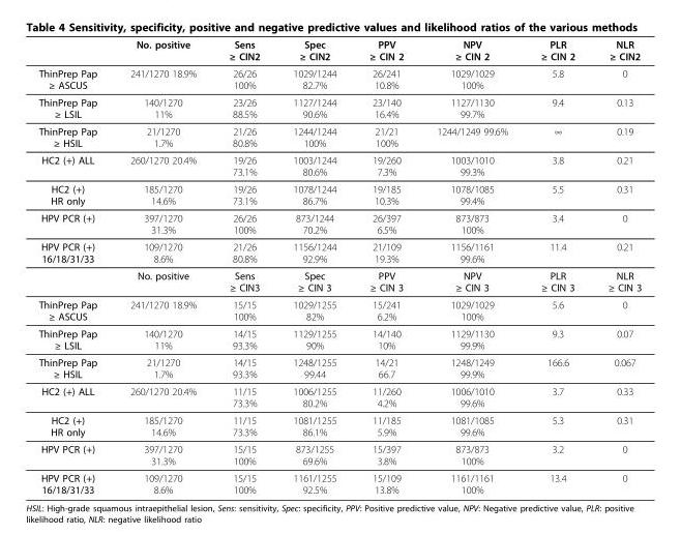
<table><thead><tr><td></td><td>No. positive</td><td>Sens ≥ CIN2</td><td>Spec ≥ CIN2</td><td>PPV ≥ CIN 2</td><td>NPV ≥ CIN 2</td><td>PLR ≥ CIN 2</td><td>NLR ≥ CIN2</td></tr></thead><tbody><tr><td>ThinPrep Pap ≥ ASCUS</td><td>241/1270 18.9%</td><td>26/26 100%</td><td>1029/1244 82.7%</td><td>26/241 10.8%</td><td>1029/1029 100%</td><td>5.8</td><td>0</td></tr><tr><td>ThinPrep Pap ≥ LSIL</td><td>140/1270 11%</td><td>23/26 88.5%</td><td>1127/1244 90.6%</td><td>23/140 16.4%</td><td>1127/1130 99.7%</td><td>9.4</td><td>0.13</td></tr><tr><td>ThinPrep Pap ≥ HSIL</td><td>21/1270 1.7%</td><td>21/26 80.8%</td><td>1244/1244 100%</td><td>21/21 100%</td><td>1244/1249 99.6%</td><td>∞</td><td>0.19</td></tr><tr><td>HC2 (+) ALL</td><td>260/1270 20.4%</td><td>19/26 73.1%</td><td>1003/1244 80.6%</td><td>19/260 7.3%</td><td>1003/1010 99.3%</td><td>3.8</td><td>0.21</td></tr><tr><td>HC2 (+) HR only</td><td>185/1270 14.6%</td><td>19/26 73.1%</td><td>1078/1244 86.7%</td><td>19/185 10.3%</td><td>1078/1085 99.4%</td><td>5.5</td><td>0.31</td></tr><tr><td>HPV PCR (+)</td><td>397/1270 31.3%</td><td>26/26 100%</td><td>873/1244 70.2%</td><td>26/397 6.5%</td><td>873/873 100%</td><td>3.4</td><td>0</td></tr><tr><td rowspan="2">HPV PCR (+) 16/18/31/33</td><td>109/1270 8.6%</td><td>21/26 80.8%</td><td>1156/1244 92.9%</td><td>21/109 19.3%</td><td>1156/1161 99.6%</td><td>11.4</td><td>0.21</td></tr><tr><td>No. positive</td><td>Sens ≥ CIN3</td><td>Spec ≥ CIN 3</td><td>PPV ≥ CIN 3</td><td>NPV ≥ CIN 3</td><td>PLR ≥ CIN 3</td><td>NLR ≥ CIN 3</td></tr><tr><td>ThinPrep Pap ≥ ASCUS</td><td>241/1270 18.9%</td><td>15/15 100%</td><td>1029/1255 82%</td><td>15/241 6.2%</td><td>1029/1029 100%</td><td>5.6</td><td>0</td></tr><tr><td>ThinPrep Pap ≥ LSIL</td><td>140/1270 11%</td><td>14/15 93.3%</td><td>1129/1255 90%</td><td>14/140 10%</td><td>1129/1130 99.9%</td><td>9.3</td><td>0.07</td></tr><tr><td>ThinPrep Pap ≥ HSIL</td><td>21/1270 1.7%</td><td>14/15 93.3%</td><td>1248/1255 99.44</td><td>14/21 66.7</td><td>1248/1249 99.9%</td><td>166.6</td><td>0.067</td></tr><tr><td>HC2 (+) ALL</td><td>260/1270 20.4%</td><td>11/15 73.3%</td><td>1006/1255 80.2%</td><td>11/260 4.2%</td><td>1006/1010 99.6%</td><td>3.7</td><td>0.33</td></tr><tr><td>HC2 (+) HR only</td><td>185/1270 14.6%</td><td>11/15 73.3%</td><td>1081/1255 86.1%</td><td>11/185 5.9%</td><td>1081/1085 99.6%</td><td>5.3</td><td>0.31</td></tr><tr><td>HPV PCR (+)</td><td>397/1270 31.3%</td><td>15/15 100%</td><td>873/1255 69.6%</td><td>15/397 3.8%</td><td>873/873 100%</td><td>3.2</td><td>0</td></tr><tr><td>HPV PCR (+) 16/18/31/33</td><td>109/1270 8.6%</td><td>15/15 100%</td><td>1161/1255 92.5%</td><td>15/109 13.8%</td><td>1161/1161 100%</td><td>13.4</td><td>0</td></tr></tbody></table>